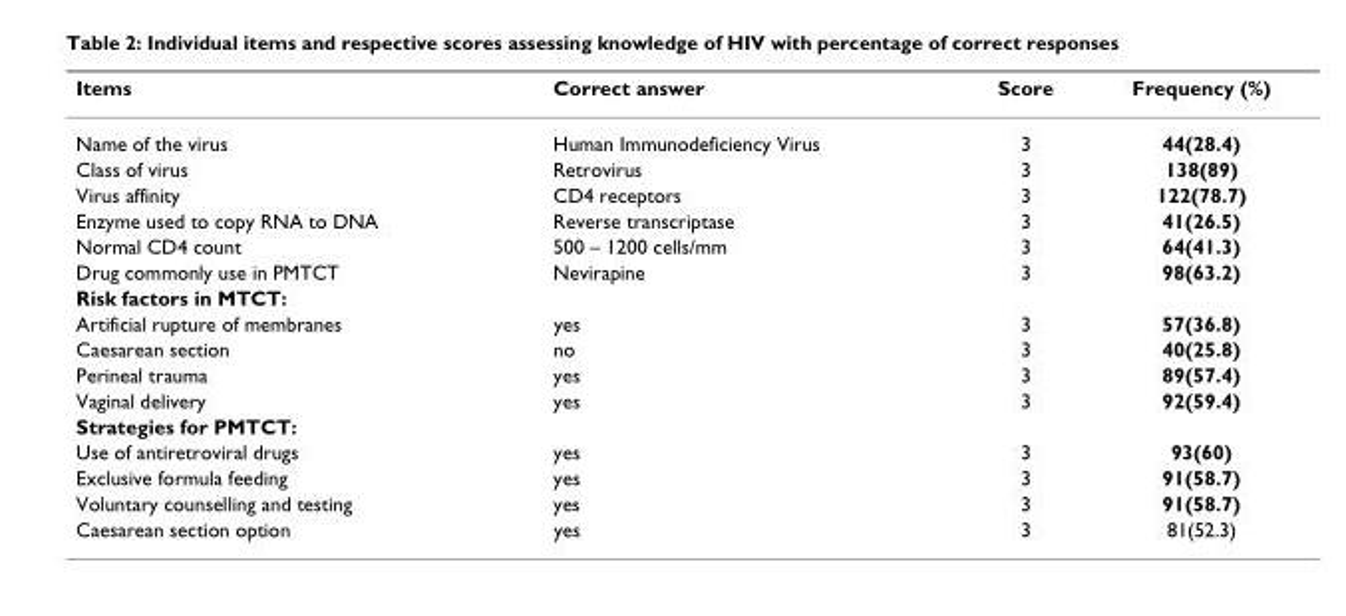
<table><thead><tr><td>Items</td><td>Correct answer</td><td>Score</td><td>Frequency (%)</td></tr></thead><tbody><tr><td>Name of the virus</td><td>Human Immunodeficiency Virus</td><td>3</td><td>44(28.4)</td></tr><tr><td>Class of virus</td><td>Retrovirus</td><td>3</td><td>138(89)</td></tr><tr><td>Virus affinity</td><td>CD4 receptors</td><td>3</td><td>122(78.7)</td></tr><tr><td>Enzyme used to copy RNA to DNA</td><td>Reverse transcriptase</td><td>3</td><td>41(26.5)</td></tr><tr><td>Normal CD4 count</td><td>500 – 1200 cells/mm</td><td>3</td><td>64(41.3)</td></tr><tr><td>Drug commonly use in PMTCT</td><td>Nevirapine</td><td>3</td><td>98(63.2)</td></tr><tr><td colspan="4">Risk factors in MTCT:</td></tr><tr><td>Artificial rupture of membranes</td><td>yes</td><td>3</td><td>57(36.8)</td></tr><tr><td>Caesarean section</td><td>no</td><td>3</td><td>40(25.8)</td></tr><tr><td>Perineal trauma</td><td>yes</td><td>3</td><td>89(57.4)</td></tr><tr><td>Vaginal delivery</td><td>yes</td><td>3</td><td>92(59.4)</td></tr><tr><td colspan="4">Strategies for PMTCT:</td></tr><tr><td>Use of antiretroviral drugs</td><td>yes</td><td>3</td><td>93(60)</td></tr><tr><td>Exclusive formula feeding</td><td>yes</td><td>3</td><td>91(58.7)</td></tr><tr><td>Voluntary counselling and testing</td><td>yes</td><td>3</td><td>91(58.7)</td></tr><tr><td>Caesarean section option</td><td>yes</td><td>3</td><td>81(52.3)</td></tr></tbody></table>